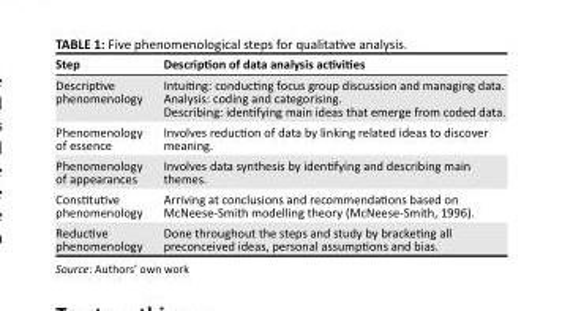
<table><thead><tr><td>Step</td><td>Description of data analysis activities</td></tr></thead><tbody><tr><td>Descriptive phenomenology</td><td>Intuiting: conducting focus group discussion and managing data. Analysis: coding and categorising. Describing: identifying main ideas that emerge from coded data.</td></tr><tr><td>Phenomenology of essence</td><td>Involves reduction of data by linking related ideas to discover meaning.</td></tr><tr><td>Phenomenology of appearances</td><td>Involves data synthesis by identifying and describing main themes.</td></tr><tr><td>Constitutive phenomenology</td><td>Arriving at conclusions and recommendations based on McNeese-Smith modelling theory (McNeese-Smith, 1996).</td></tr><tr><td>Reductive phenomenology</td><td>Done throughout the steps and study by bracketing all preconceived ideas, personal assumptions and bias.</td></tr></tbody></table>